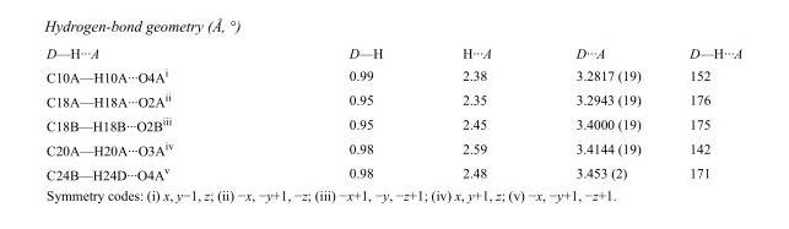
<table><tbody><tr><td>D—H···A</td><td>D—H</td><td>H···A</td><td>D···A</td><td>D—H···A</td></tr><tr><td>C10A—H10A···O4A<sup>i</sup></td><td>0.99</td><td>2.38</td><td>3.2817 (19)</td><td>152</td></tr><tr><td>C18A—H18A···O2A<sup>ii</sup></td><td>0.95</td><td>2.35</td><td>3.2943 (19)</td><td>176</td></tr><tr><td>C18B—H18B···O2B<sup>iii</sup></td><td>0.95</td><td>2.45</td><td>3.4000 (19)</td><td>175</td></tr><tr><td>C20A—H20A···O3A<sup>iv</sup></td><td>0.98</td><td>2.59</td><td>3.4144 (19)</td><td>142</td></tr><tr><td>C24B—H24D···O4A<sup>v</sup></td><td>0.98</td><td>2.48</td><td>3.453 (2)</td><td>171</td></tr></tbody></table>